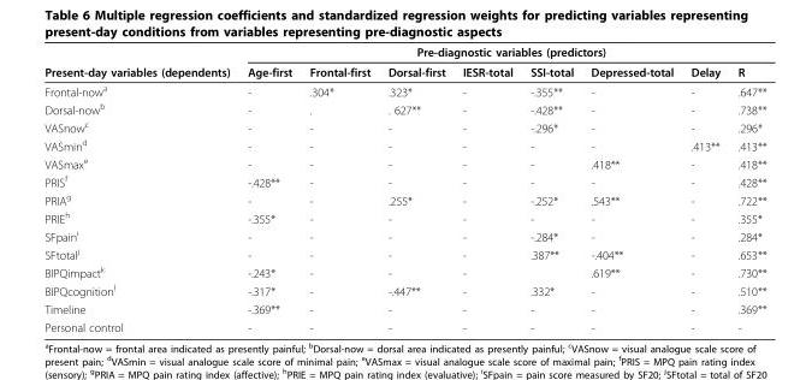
<table><thead><tr><td rowspan="2">Present-day variables (dependents)</td><td colspan="8">Pre-diagnostic variables (predictors)</td></tr><tr><td>Age-first</td><td>Frontal-first</td><td>Dorsal-first</td><td>IESR-total</td><td>SSI-total</td><td>Depressed-total</td><td>Delay</td><td>R</td></tr></thead><tbody><tr><td>Frontal-now<sup>a</sup></td><td>-</td><td>.304*</td><td>.323*</td><td>-</td><td>-.355**</td><td>-</td><td>-</td><td>.647**</td></tr><tr><td>Dorsal-now<sup>b</sup></td><td>-</td><td>.</td><td>. 627**</td><td>-</td><td>-.428**</td><td>-</td><td>-</td><td>.738**</td></tr><tr><td>VASnow<sup>c</sup></td><td>-</td><td>-</td><td>-</td><td>-</td><td>-.296*</td><td>-</td><td>-</td><td>.296*</td></tr><tr><td>VASmin<sup>d</sup></td><td>-</td><td>-</td><td>-</td><td>-</td><td>-</td><td>-</td><td>.413**</td><td>.413**</td></tr><tr><td>VASmax<sup>e</sup></td><td>-</td><td>-</td><td>-</td><td>-</td><td>-</td><td>.418**</td><td>-</td><td>.418**</td></tr><tr><td>PRIS<sup>f</sup></td><td>-.428**</td><td>-</td><td>-</td><td>-</td><td>-</td><td>-</td><td>-</td><td>.428**</td></tr><tr><td>PRIA<sup>g</sup></td><td>-</td><td>-</td><td>.255*</td><td>-</td><td>-.252*</td><td>.543**</td><td>-</td><td>.722**</td></tr><tr><td>PRIE<sup>h</sup></td><td>-.355*</td><td>-</td><td>-</td><td>-</td><td>-</td><td>-</td><td>-</td><td>.355*</td></tr><tr><td>SFpain<sup>i</sup></td><td>-</td><td>-</td><td>-</td><td>-</td><td>-.284*</td><td>-</td><td>-</td><td>.284*</td></tr><tr><td>SFtotal<sup>j</sup></td><td>-</td><td>-</td><td>-</td><td>-</td><td>.387**</td><td>-.404**</td><td>-</td><td>.653**</td></tr><tr><td>BIPQimpact<sup>k</sup></td><td>-.243*</td><td>-</td><td>-</td><td>-</td><td></td><td>.619**</td><td>-</td><td>.730**</td></tr><tr><td>BIPQcognition<sup>l</sup></td><td>-.317*</td><td>-</td><td>-.447**</td><td>-</td><td>.332*</td><td>-</td><td>-</td><td>.510**</td></tr><tr><td>Timeline</td><td>-.369**</td><td>-</td><td>-</td><td>-</td><td>-</td><td>-</td><td>-</td><td>.369**</td></tr><tr><td>Personal control</td><td>-</td><td>-</td><td>-</td><td>-</td><td>-</td><td>-</td><td>-</td><td>-</td></tr></tbody></table>